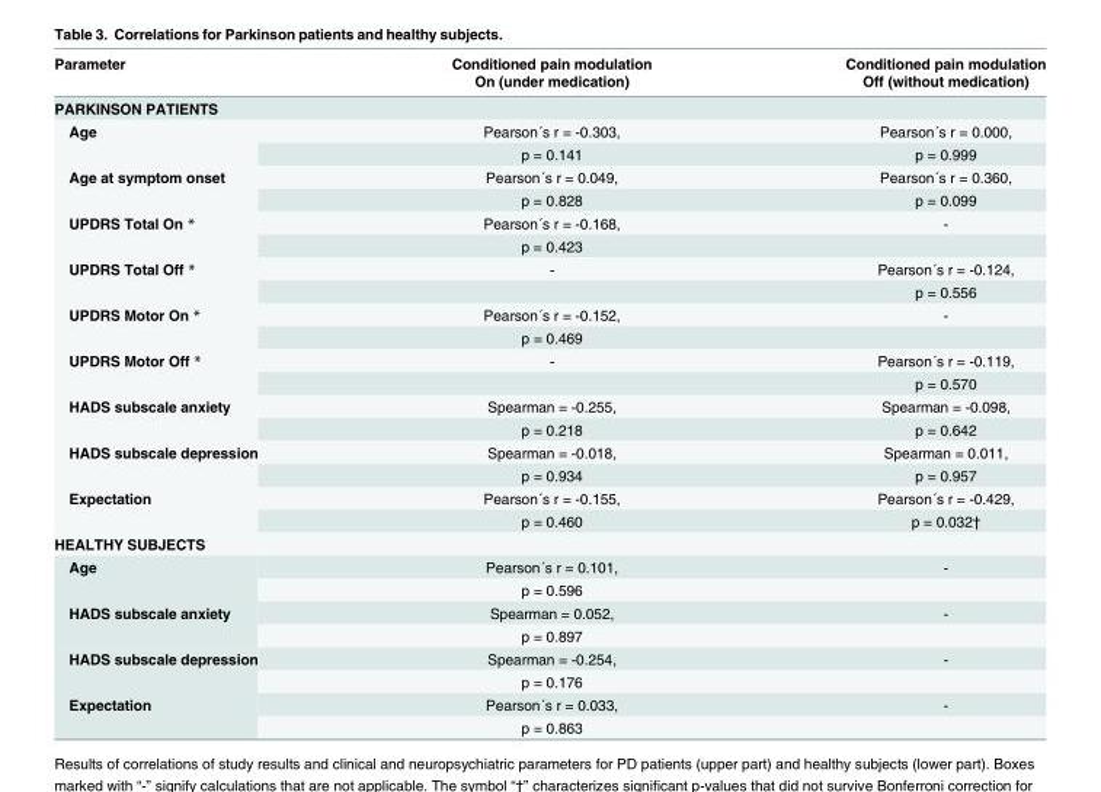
<table><thead><tr><td rowspan="2">Parameter</td><td rowspan="2">Conditioned pain modulation On (under medication)</td><td rowspan="2">Conditioned pain modulation Off (without medication)</td></tr><tr></tr></thead><tbody><tr><td colspan="3">PARKINSON PATIENTS</td></tr><tr><td rowspan="2">Age</td><td>Pearson´s r = -0.303,</td><td>Pearson´s r = 0.000,</td></tr><tr><td>p = 0.141</td><td>p = 0.999</td></tr><tr><td rowspan="2">Age at symptom onset</td><td>Pearson´s r = 0.049,</td><td>Pearson´s r = 0.360,</td></tr><tr><td>p = 0.828</td><td>p = 0.099</td></tr><tr><td rowspan="2">UPDRS Total On *</td><td>Pearson´s r = -0.168,</td><td>-</td></tr><tr><td>p = 0.423</td><td></td></tr><tr><td rowspan="2">UPDRS Total Off *</td><td>-</td><td>Pearson´s r = -0.124,</td></tr><tr><td></td><td>p = 0.556</td></tr><tr><td rowspan="2">UPDRS Motor On *</td><td>Pearson´s r = -0.152,</td><td>-</td></tr><tr><td>p = 0.469</td><td></td></tr><tr><td rowspan="2">UPDRS Motor Off *</td><td>-</td><td>Pearson´s r = -0.119,</td></tr><tr><td></td><td>p = 0.570</td></tr><tr><td rowspan="2">HADS subscale anxiety</td><td>Spearman = -0.255,</td><td>Spearman = -0.098,</td></tr><tr><td>p = 0.218</td><td>p = 0.642</td></tr><tr><td rowspan="2">HADS subscale depression</td><td>Spearman = -0.018,</td><td>Spearman = 0.011,</td></tr><tr><td>p = 0.934</td><td>p = 0.957</td></tr><tr><td rowspan="2">Expectation</td><td>Pearson´s r = -0.155,</td><td>Pearson´s r = -0.429,</td></tr><tr><td>p = 0.460</td><td>p = 0.032†</td></tr><tr><td colspan="3">HEALTHY SUBJECTS</td></tr><tr><td rowspan="2">Age</td><td>Pearson´s r = 0.101,</td><td>-</td></tr><tr><td>p = 0.596</td><td></td></tr><tr><td rowspan="2">HADS subscale anxiety</td><td>Spearman = 0.052,</td><td>-</td></tr><tr><td>p = 0.897</td><td></td></tr><tr><td rowspan="2">HADS subscale depression</td><td>Spearman = -0.254,</td><td>-</td></tr><tr><td>p = 0.176</td><td></td></tr><tr><td rowspan="2">Expectation</td><td>Pearson´s r = 0.033,</td><td>-</td></tr><tr><td>p = 0.863</td><td></td></tr></tbody></table>